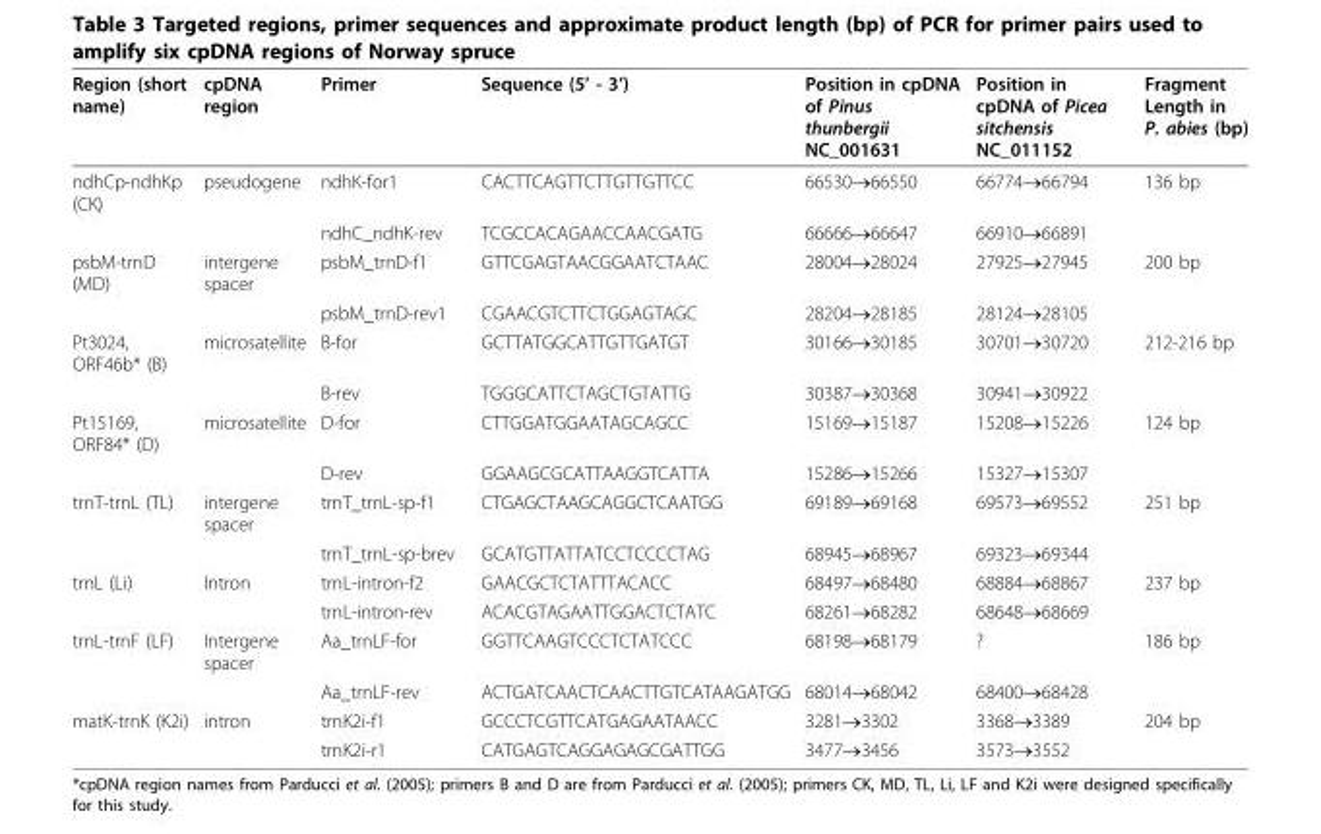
<table><thead><tr><td>Region (short name)</td><td>cpDNA region</td><td>Primer</td><td>Sequence (5’ - 3’)</td><td>Position in cpDNA of Pinus thunbergii NC_001631</td><td>Position in cpDNA of Picea sitchensis NC_011152</td><td>Fragment Length in P. abies (bp)</td></tr></thead><tbody><tr><td rowspan="2">ndhCp-ndhKp (CK)</td><td>pseudogene</td><td>ndhK-for1</td><td>CACTTCAGTTCTTGTTGTTCC</td><td>66530→66550</td><td>66774→66794</td><td>136 bp</td></tr><tr><td></td><td>ndhC_ndhK-rev</td><td>TCGCCACAGAACCAACGATG</td><td>66666→66647</td><td>66910→66891</td><td></td></tr><tr><td rowspan="2">psbM-trnD (MD)</td><td>intergene spacer</td><td>psbM_trnD-f1</td><td>GTTCGAGTAACGGAATCTAAC</td><td>28004→28024</td><td>27925→27945</td><td>200 bp</td></tr><tr><td></td><td>psbM_trnD-rev1</td><td>CGAACGTCTTCTGGAGTAGC</td><td>28204→28185</td><td>28124→28105</td><td></td></tr><tr><td rowspan="2">Pt3024, ORF46b* (B)</td><td>microsatellite</td><td>B-for</td><td>GCTTATGGCATTGTTGATGT</td><td>30166→30185</td><td>30701→30720</td><td>212-216 bp</td></tr><tr><td></td><td>B-rev</td><td>TGGGCATTCTAGCTGTATTG</td><td>30387→30368</td><td>30941→30922</td><td></td></tr><tr><td rowspan="2">Pt15169, ORF84* (D)</td><td>microsatellite</td><td>D-for</td><td>CTTGGATGGAATAGCAGCC</td><td>15169→15187</td><td>15208→15226</td><td>124 bp</td></tr><tr><td></td><td>D-rev</td><td>GGAAGCGCATTAAGGTCATTA</td><td>15286→15266</td><td>15327→15307</td><td></td></tr><tr><td rowspan="2">trnT-trnL (TL)</td><td>intergene spacer</td><td>trnT_trnL-sp-f1</td><td>CTGAGCTAAGCAGGCTCAATGG</td><td>69189→69168</td><td>69573→69552</td><td>251 bp</td></tr><tr><td></td><td>trnT_trnL-sp-brev</td><td>GCATGTTATTATCCTCCCCTAG</td><td>68945→68967</td><td>69323→69344</td><td></td></tr><tr><td rowspan="2">trnL (Li)</td><td>Intron</td><td>trnL-intron-f2</td><td>GAACGCTCTATTTACACC</td><td>68497→68480</td><td>68884→68867</td><td>237 bp</td></tr><tr><td></td><td>trnL-intron-rev</td><td>ACACGTAGAATTGGACTCTATC</td><td>68261→68282</td><td>68648→68669</td><td></td></tr><tr><td rowspan="2">trnL-trnF (LF)</td><td>Intergene spacer</td><td>Aa_trnLF-for</td><td>GGTTCAAGTCCCTCTATCCC</td><td>68198→68179</td><td>?</td><td>186 bp</td></tr><tr><td></td><td>Aa_trnLF-rev</td><td>ACTGATCAACTCAACTTGTCATAAGATGG</td><td>68014→68042</td><td>68400→68428</td><td></td></tr><tr><td rowspan="2">matK-trnK (K2i)</td><td>intron</td><td>trnK2i-f1</td><td>GCCCTCGTTCATGAGAATAACC</td><td>3281→3302</td><td>3368→3389</td><td>204 bp</td></tr><tr><td></td><td>trnK2i-r1</td><td>CATGAGTCAGGAGAGCGATTGG</td><td>3477→3456</td><td>3573→3552</td><td></td></tr></tbody></table>